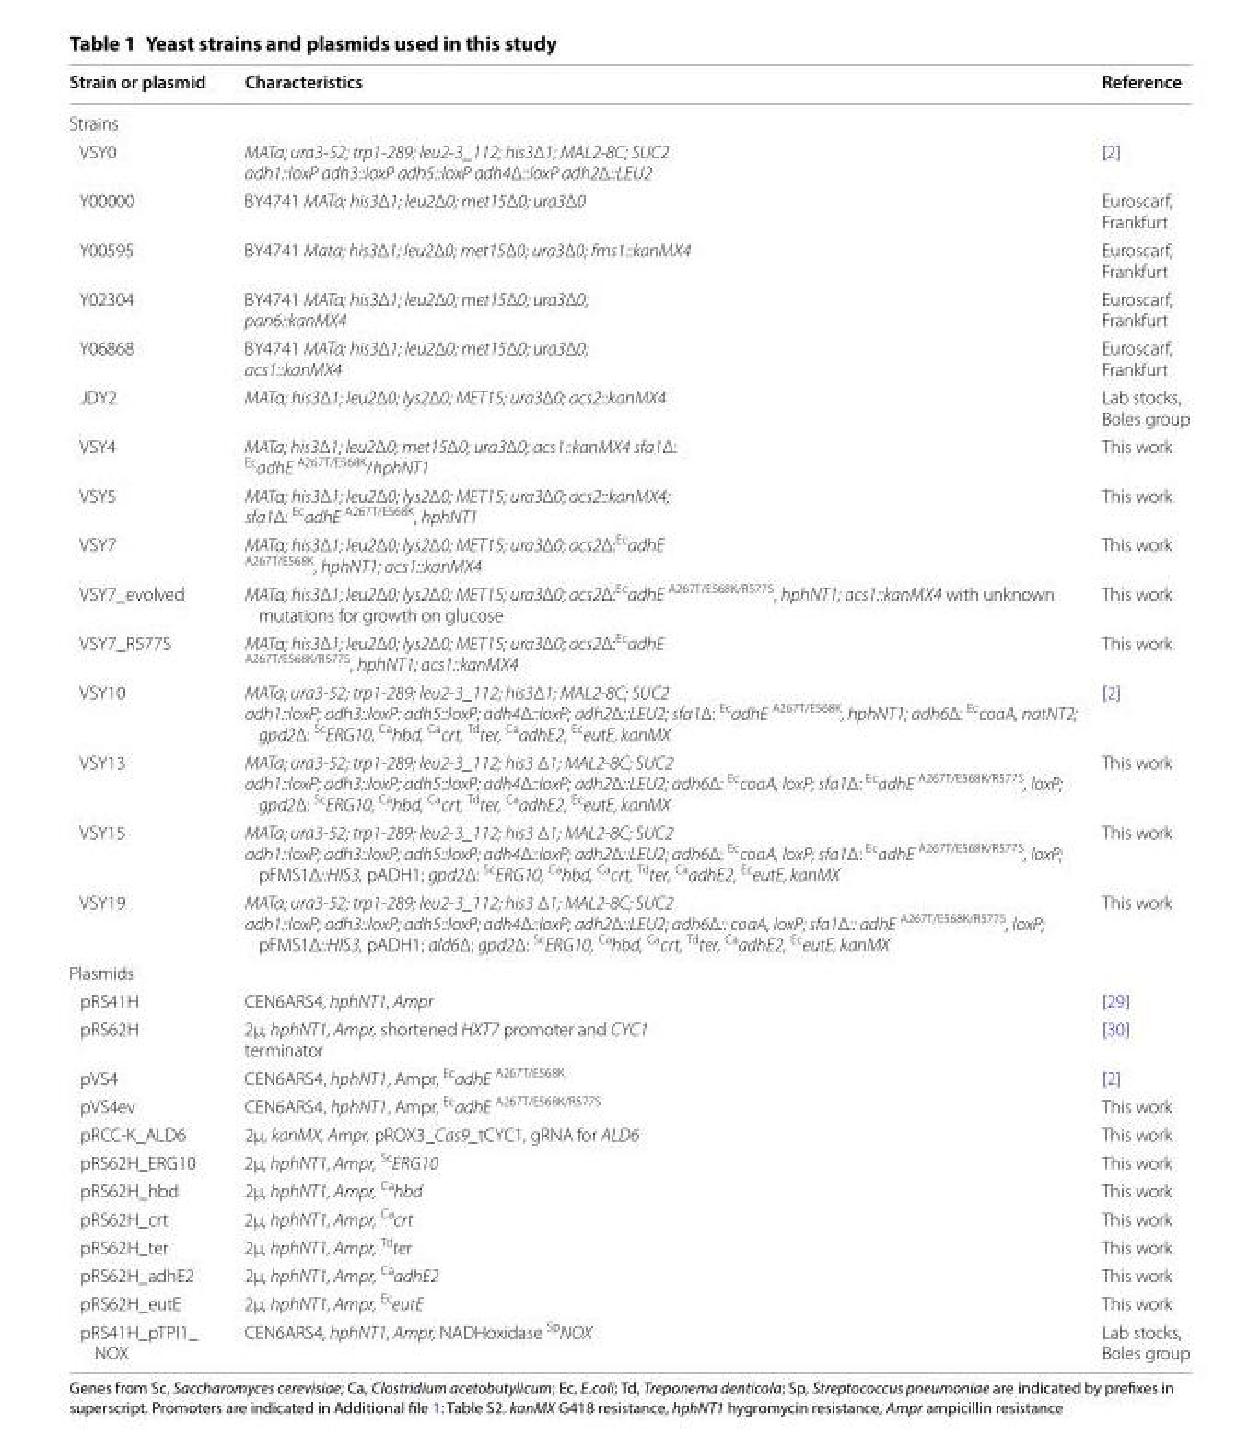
<table><thead><tr><td>Strain or plasmid</td><td>Characteristics</td><td>Reference</td></tr></thead><tbody><tr><td colspan="3">Strains</td></tr><tr><td>VSY0</td><td>MATa; ura3-52; trp1-289; leu2-3_112; his3Δ1; MAL2-8C; SUC2 adh1::loxP adh3::loxP adh5::loxP adh4Δ::loxP adh2Δ::LEU2</td><td>[2]</td></tr><tr><td>Y00000</td><td>BY4741 MATa; his3Δ1; leu2Δ0; met15Δ0; ura3Δ0</td><td>Euroscarf, Frankfurt</td></tr><tr><td>Y00595</td><td>BY4741 Mata; his3Δ1; leu2Δ0; met15Δ0; ura3Δ0; fms1::kanMX4</td><td>Euroscarf, Frankfurt</td></tr><tr><td>Y02304</td><td>BY4741 MATa; his3Δ1; leu2Δ0; met15Δ0; ura3Δ0; pan6::kanMX4</td><td>Euroscarf, Frankfurt</td></tr><tr><td>Y06868</td><td>BY4741 MATa; his3Δ1; leu2Δ0; met15Δ0; ura3Δ0; acs1::kanMX4</td><td>Euroscarf, Frankfurt</td></tr><tr><td>JDY2</td><td>MATα; his3Δ1; leu2Δ0; lys2Δ0; MET15; ura3Δ0; acs2::kanMX4</td><td>Lab stocks, Boles group</td></tr><tr><td>VSY4</td><td>MATa; his3Δ1; leu2Δ0; met15Δ0; ura3Δ0; acs1::kanMX4 sfa1Δ: <sup>Ec</sup>adhE <sup>A267T/E568K</sup>/hphNT1</td><td>This work</td></tr><tr><td>VSY5</td><td>MATα; his3Δ1; leu2Δ0; lys2Δ0; MET15; ura3Δ0; acs2::kanMX4; sfa1Δ: <sup>Ec</sup>adhE <sup>A267T/E568K</sup>, hphNT1</td><td>This work</td></tr><tr><td>VSY7</td><td>MATα; his3Δ1; leu2Δ0; lys2Δ0; MET15; ura3Δ0; acs2Δ:<sup>Ec</sup>adhE <sup>A267T/E568K</sup>, hphNT1; acs1::kanMX4</td><td>This work</td></tr><tr><td>VSY7_evolved</td><td>MATα; his3Δ1; leu2Δ0; lys2Δ0; MET15; ura3Δ0; acs2Δ:<sup>Ec</sup>adhE <sup>A267T/E568K/R577S</sup>, hphNT1; acs1::kanMX4 with unknown mutations for growth on glucose</td><td>This work</td></tr><tr><td>VSY7_R577S</td><td>MATα; his3Δ1; leu2Δ0; lys2Δ0; MET15; ura3Δ0; acs2Δ:<sup>Ec</sup>adhE <sup>A267T/E568K/R577S</sup>, hphNT1; acs1::kanMX4</td><td>This work</td></tr><tr><td>VSY10</td><td>MATa; ura3-52; trp1-289; leu2-3_112; his3Δ1; MAL2-8C; SUC2 adh1::loxP; adh3::loxP: adh5::loxP; adh4Δ::loxP; adh2Δ::LEU2; sfa1Δ: <sup>Ec</sup>adhE <sup>A267T/E568K</sup>, hphNT1; adh6Δ: <sup>Ec</sup>coaA, natNT2; gpd2Δ: <sup>Sc</sup>ERG10, <sup>Ca</sup>hbd, <sup>Ca</sup>crt, <sup>Td</sup>ter, <sup>Ca</sup>adhE2, <sup>Ec</sup>eutE, kanMX</td><td>[2]</td></tr><tr><td>VSY13</td><td>MATa; ura3-52; trp1-289; leu2-3_112; his3 Δ1; MAL2-8C; SUC2 adh1::loxP; adh3::loxP; adh5::loxP; adh4Δ::loxP; adh2Δ::LEU2; adh6Δ: <sup>Ec</sup>coaA, loxP; sfa1Δ: <sup>Ec</sup>adhE <sup>A267T/E568K/R577S</sup>, loxP; gpd2Δ: <sup>Sc</sup>ERG10, <sup>Ca</sup>hbd, <sup>Ca</sup>crt, <sup>Td</sup>ter, <sup>Ca</sup>adhE2, <sup>Ec</sup>eutE, kanMX</td><td>This work</td></tr><tr><td>VSY15</td><td>MATa; ura3-52; trp1-289; leu2-3_112; his3 Δ1; MAL2-8C; SUC2 adh1::loxP; adh3::loxP; adh5::loxP; adh4Δ::loxP; adh2Δ::LEU2; adh6Δ: <sup>Ec</sup>coaA, loxP; sfa1Δ: <sup>Ec</sup>adhE <sup>A267T/E568K/R577S</sup>, loxP; pFMS1Δ::HIS3, pADH1; gpd2Δ: <sup>Sc</sup>ERG10, <sup>Ca</sup>hbd, <sup>Ca</sup>crt, <sup>Td</sup>ter, <sup>Ca</sup>adhE2, <sup>Ec</sup>eutE, kanMX</td><td>This work</td></tr><tr><td>VSY19</td><td>MATa; ura3-52; trp1-289; leu2-3_112; his3 Δ1; MAL2-8C; SUC2 adh1::loxP; adh3::loxP; adh5::loxP; adh4Δ::loxP; adh2Δ::LEU2; adh6Δ:: coaA, loxP; sfa1Δ:: adhE <sup>A267T/E568K/R577S</sup>, loxP; pFMS1Δ::HIS3, pADH1; ald6Δ; gpd2Δ: <sup>Sc</sup>ERG10, <sup>Ca</sup>hbd, <sup>Ca</sup>crt, <sup>Td</sup>ter, <sup>Ca</sup>adhE2, <sup>Ec</sup>eutE, kanMX</td><td>This work</td></tr><tr><td colspan="3">Plasmids</td></tr><tr><td>pRS41H</td><td>CEN6ARS4, hphNT1, Ampr</td><td>[29]</td></tr><tr><td>pRS62H</td><td>2µ, hphNT1, Ampr, shortened HXT7 promoter and CYC1 terminator</td><td>[30]</td></tr><tr><td>pVS4</td><td>CEN6ARS4, hphNT1, Ampr, <sup>Ec</sup>adhE <sup>A267T/E568K</sup></td><td>[2]</td></tr><tr><td>pVS4ev</td><td>CEN6ARS4, hphNT1, Ampr, <sup>Ec</sup>adhE <sup>A267T/E568K/R577S</sup></td><td>This work</td></tr><tr><td>pRCC-K_ALD6</td><td>2µ, kanMX, Ampr, pROX3_Cas9_tCYC1, gRNA for ALD6</td><td>This work</td></tr><tr><td>pRS62H_ERG10</td><td>2µ, hphNT1, Ampr, <sup>Sc</sup>ERG10</td><td>This work</td></tr><tr><td>pRS62H_hbd</td><td>2µ, hphNT1, Ampr, <sup>Ca</sup>hbd</td><td>This work</td></tr><tr><td>pRS62H_crt</td><td>2µ, hphNT1, Ampr, <sup>Ca</sup>crt</td><td>This work</td></tr><tr><td>pRS62H_ter</td><td>2µ, hphNT1, Ampr, <sup>Td</sup>ter</td><td>This work</td></tr><tr><td>pRS62H_adhE2</td><td>2µ, hphNT1, Ampr, <sup>Ca</sup>adhE2</td><td>This work</td></tr><tr><td>pRS62H_eutE</td><td>2µ, hphNT1, Ampr, <sup>Ec</sup>eutE</td><td>This work</td></tr><tr><td>pRS41H_pTPI1_ NOX</td><td>CEN6ARS4, hphNT1, Ampr, NADHoxidase <sup>Sp</sup>NOX</td><td>Lab stocks, Boles group</td></tr></tbody></table>